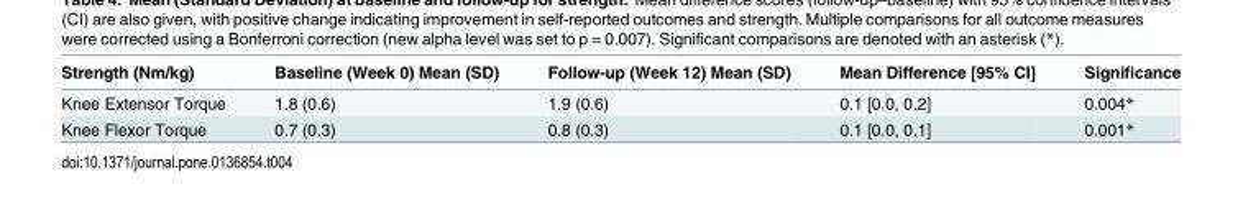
<table><thead><tr><td>Strength (Nm/kg)</td><td>Baseline (Week 0) Mean (SD)</td><td>Follow-up (Week 12) Mean (SD)</td><td>Mean Difference [95% CI]</td><td>Significance</td></tr></thead><tbody><tr><td>Knee Extensor Torque</td><td>1.8 (0.6)</td><td>1.9 (0.6)</td><td>0.1 [0.0, 0.2]</td><td>0.004*</td></tr><tr><td>Knee Flexor Torque</td><td>0.7 (0.3)</td><td>0.8 (0.3)</td><td>0.1 [0.0, 0.1]</td><td>0.001*</td></tr></tbody></table>